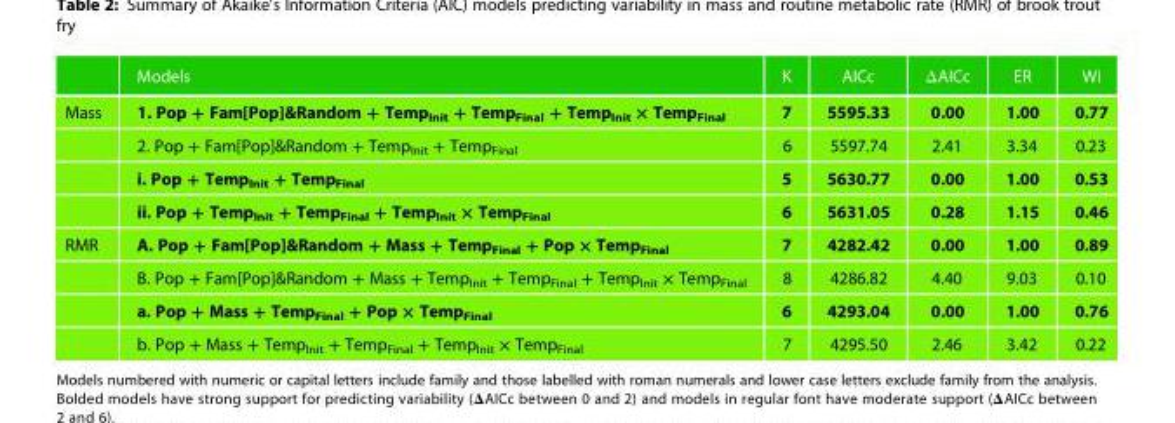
<table><thead><tr><td></td><td>Models</td><td>K</td><td>AICc</td><td>ΔAICc</td><td>ER</td><td>Wi</td></tr></thead><tbody><tr><td rowspan="4">Mass</td><td>1. Pop + Fam[Pop]&amp;Random + Temp<sub>Init</sub> + Temp<sub>Final</sub> + Temp<sub>Init</sub> × Temp<sub>Final</sub></td><td>7</td><td>5595.33</td><td>0.00</td><td>1.00</td><td>0.77</td></tr><tr><td>2. Pop + Fam[Pop]&amp;Random + Temp<sub>Init</sub> + Temp<sub>Final</sub></td><td>6</td><td>5597.74</td><td>2.41</td><td>3.34</td><td>0.23</td></tr><tr><td>i. Pop + Temp<sub>Init</sub> + Temp<sub>Final</sub></td><td>5</td><td>5630.77</td><td>0.00</td><td>1.00</td><td>0.53</td></tr><tr><td>ii. Pop + Temp<sub>Init</sub> + Temp<sub>Final</sub> + Temp<sub>Init</sub> × Temp<sub>Final</sub></td><td>6</td><td>5631.05</td><td>0.28</td><td>1.15</td><td>0.46</td></tr><tr><td rowspan="4">RMR</td><td>A. Pop + Fam[Pop]&amp;Random + Mass + Temp<sub>Final</sub> + Pop × Temp<sub>Final</sub></td><td>7</td><td>4282.42</td><td>0.00</td><td>1.00</td><td>0.89</td></tr><tr><td>B. Pop + Fam[Pop]&amp;Random + Mass + Temp<sub>Init</sub> + Temp<sub>Final</sub> + Temp<sub>Init</sub> × Temp<sub>Final</sub></td><td>8</td><td>4286.82</td><td>4.40</td><td>9.03</td><td>0.10</td></tr><tr><td>a. Pop + Mass + Temp<sub>Final</sub> + Pop × Temp<sub>Final</sub></td><td>6</td><td>4293.04</td><td>0.00</td><td>1.00</td><td>0.76</td></tr><tr><td>b. Pop + Mass + Temp<sub>Init</sub> + Temp<sub>Final</sub> + Temp<sub>Init</sub> × Temp<sub>Final</sub></td><td>7</td><td>4295.50</td><td>2.46</td><td>3.42</td><td>0.22</td></tr></tbody></table>